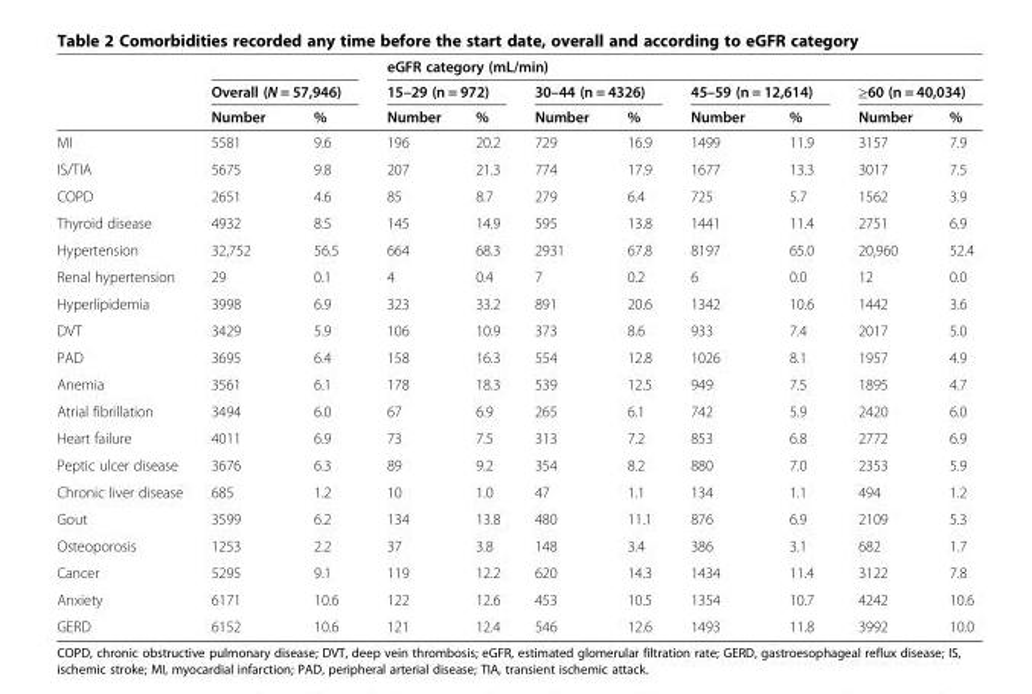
<table><thead><tr><td rowspan="3"></td><td></td><td></td><td colspan="8">eGFR category (mL/min)</td></tr><tr><td colspan="2">Overall (N = 57,946)</td><td colspan="2">15–29 (n = 972)</td><td colspan="2">30–44 (n = 4326)</td><td colspan="2">45–59 (n = 12,614)</td><td colspan="2">≥60 (n = 40,034)</td></tr><tr><td>Number</td><td>%</td><td>Number</td><td>%</td><td>Number</td><td>%</td><td>Number</td><td>%</td><td>Number</td><td>%</td></tr></thead><tbody><tr><td>MI</td><td>5581</td><td>9.6</td><td>196</td><td>20.2</td><td>729</td><td>16.9</td><td>1499</td><td>11.9</td><td>3157</td><td>7.9</td></tr><tr><td>IS/TIA</td><td>5675</td><td>9.8</td><td>207</td><td>21.3</td><td>774</td><td>17.9</td><td>1677</td><td>13.3</td><td>3017</td><td>7.5</td></tr><tr><td>COPD</td><td>2651</td><td>4.6</td><td>85</td><td>8.7</td><td>279</td><td>6.4</td><td>725</td><td>5.7</td><td>1562</td><td>3.9</td></tr><tr><td>Thyroid disease</td><td>4932</td><td>8.5</td><td>145</td><td>14.9</td><td>595</td><td>13.8</td><td>1441</td><td>11.4</td><td>2751</td><td>6.9</td></tr><tr><td>Hypertension</td><td>32,752</td><td>56.5</td><td>664</td><td>68.3</td><td>2931</td><td>67.8</td><td>8197</td><td>65.0</td><td>20,960</td><td>52.4</td></tr><tr><td>Renal hypertension</td><td>29</td><td>0.1</td><td>4</td><td>0.4</td><td>7</td><td>0.2</td><td>6</td><td>0.0</td><td>12</td><td>0.0</td></tr><tr><td>Hyperlipidemia</td><td>3998</td><td>6.9</td><td>323</td><td>33.2</td><td>891</td><td>20.6</td><td>1342</td><td>10.6</td><td>1442</td><td>3.6</td></tr><tr><td>DVT</td><td>3429</td><td>5.9</td><td>106</td><td>10.9</td><td>373</td><td>8.6</td><td>933</td><td>7.4</td><td>2017</td><td>5.0</td></tr><tr><td>PAD</td><td>3695</td><td>6.4</td><td>158</td><td>16.3</td><td>554</td><td>12.8</td><td>1026</td><td>8.1</td><td>1957</td><td>4.9</td></tr><tr><td>Anemia</td><td>3561</td><td>6.1</td><td>178</td><td>18.3</td><td>539</td><td>12.5</td><td>949</td><td>7.5</td><td>1895</td><td>4.7</td></tr><tr><td>Atrial fibrillation</td><td>3494</td><td>6.0</td><td>67</td><td>6.9</td><td>265</td><td>6.1</td><td>742</td><td>5.9</td><td>2420</td><td>6.0</td></tr><tr><td>Heart failure</td><td>4011</td><td>6.9</td><td>73</td><td>7.5</td><td>313</td><td>7.2</td><td>853</td><td>6.8</td><td>2772</td><td>6.9</td></tr><tr><td>Peptic ulcer disease</td><td>3676</td><td>6.3</td><td>89</td><td>9.2</td><td>354</td><td>8.2</td><td>880</td><td>7.0</td><td>2353</td><td>5.9</td></tr><tr><td>Chronic liver disease</td><td>685</td><td>1.2</td><td>10</td><td>1.0</td><td>47</td><td>1.1</td><td>134</td><td>1.1</td><td>494</td><td>1.2</td></tr><tr><td>Gout</td><td>3599</td><td>6.2</td><td>134</td><td>13.8</td><td>480</td><td>11.1</td><td>876</td><td>6.9</td><td>2109</td><td>5.3</td></tr><tr><td>Osteoporosis</td><td>1253</td><td>2.2</td><td>37</td><td>3.8</td><td>148</td><td>3.4</td><td>386</td><td>3.1</td><td>682</td><td>1.7</td></tr><tr><td>Cancer</td><td>5295</td><td>9.1</td><td>119</td><td>12.2</td><td>620</td><td>14.3</td><td>1434</td><td>11.4</td><td>3122</td><td>7.8</td></tr><tr><td>Anxiety</td><td>6171</td><td>10.6</td><td>122</td><td>12.6</td><td>453</td><td>10.5</td><td>1354</td><td>10.7</td><td>4242</td><td>10.6</td></tr><tr><td>GERD</td><td>6152</td><td>10.6</td><td>121</td><td>12.4</td><td>546</td><td>12.6</td><td>1493</td><td>11.8</td><td>3992</td><td>10.0</td></tr></tbody></table>